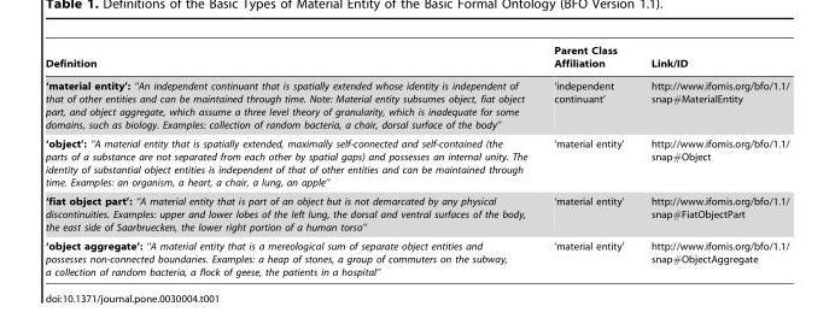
<table><thead><tr><td>Definition</td><td>Parent Class Affiliation</td><td>Link/ID</td></tr></thead><tbody><tr><td>‘material entity’: ‘‘An independent continuant that is spatially extended whose identity is independent of that of other entities and can be maintained through time. Note: Material entity subsumes object, fiat object part, and object aggregate, which assume a three level theory of granularity, which is inadequate for some domains, such as biology. Examples: collection of random bacteria, a chair, dorsal surface of the body’’</td><td>‘independent continuant’</td><td>http://www.ifomis.org/bfo/1.1/ snap#MaterialEntity</td></tr><tr><td>‘object’: ‘‘A material entity that is spatially extended, maximally self-connected and self-contained (the parts of a substance are not separated from each other by spatial gaps) and possesses an internal unity. The identity of substantial object entities is independent of that of other entities and can be maintained through time. Examples: an organism, a heart, a chair, a lung, an apple’’</td><td>‘material entity’</td><td>http://www.ifomis.org/bfo/1.1/ snap#Object</td></tr><tr><td>‘fiat object part’: ‘‘A material entity that is part of an object but is not demarcated by any physical discontinuities. Examples: upper and lower lobes of the left lung, the dorsal and ventral surfaces of the body, the east side of Saarbruecken, the lower right portion of a human torso’’</td><td>‘material entity’</td><td>http://www.ifomis.org/bfo/1.1/ snap#FiatObjectPart</td></tr><tr><td>‘object aggregate’: ‘‘A material entity that is a mereological sum of separate object entities and possesses non-connected boundaries. Examples: a heap of stones, a group of commuters on the subway, a collection of random bacteria, a flock of geese, the patients in a hospital’’</td><td>‘material entity’</td><td>http://www.ifomis.org/bfo/1.1/ snap#ObjectAggregate</td></tr></tbody></table>